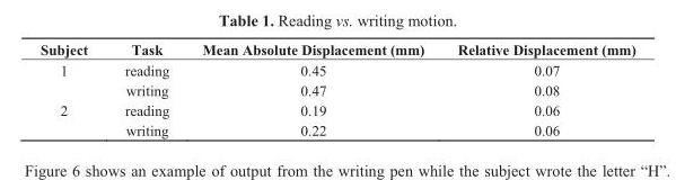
<table><thead><tr><td>Subject</td><td>Task</td><td>Mean Absolute Displacement (mm)</td><td>Relative Displacement (mm)</td></tr></thead><tbody><tr><td rowspan="2">1</td><td>reading</td><td>0.45</td><td>0.07</td></tr><tr><td>writing</td><td>0.47</td><td>0.08</td></tr><tr><td rowspan="2">2</td><td>reading</td><td>0.19</td><td>0.06</td></tr><tr><td>writing</td><td>0.22</td><td>0.06</td></tr></tbody></table>